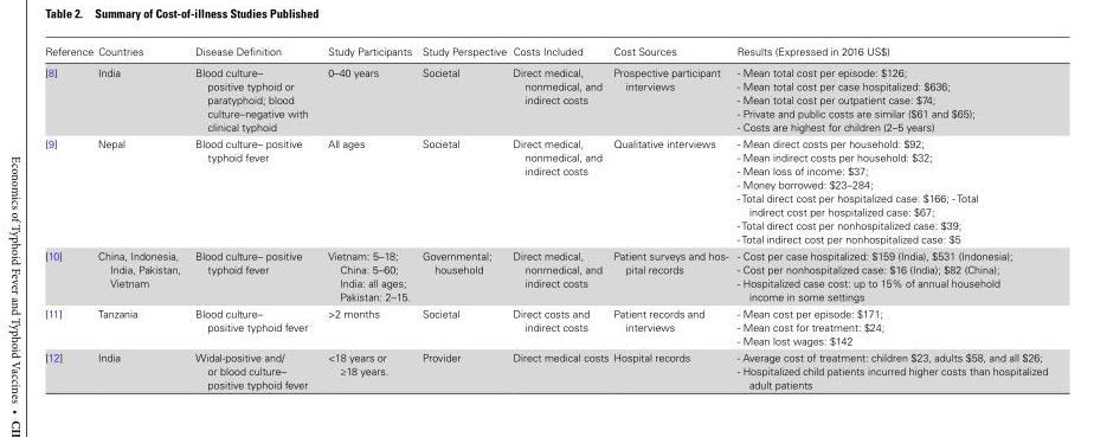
<table><thead><tr><td>Reference</td><td>Countries</td><td>Disease Definition</td><td>Study Participants</td><td>Study Perspective</td><td>Costs Included</td><td>Cost Sources</td><td>Results (Expressed in 2016 US$)</td></tr></thead><tbody><tr><td>[8]</td><td>India</td><td>Blood culture– positive typhoid or paratyphoid; blood culture–negative with clinical typhoid</td><td>0–40 years</td><td>Societal</td><td>Direct medical, nonmedical, and indirect costs</td><td>Prospective participant interviews</td><td>- Mean total cost per episode: $126; - Mean total cost per case hospitalized: $636; - Mean total cost per outpatient case: $74; - Private and public costs are similar ($61 and $65); - Costs are highest for children (2–5 years)</td></tr><tr><td>[9]</td><td>Nepal</td><td>Blood culture– positive typhoid fever</td><td>All ages</td><td>Societal</td><td>Direct medical, nonmedical, and indirect costs</td><td>Qualitative interviews</td><td>- Mean direct costs per household: $92; - Mean indirect costs per household: $32; - Mean loss of income: $37; - Money borrowed: $23–284; - Total direct cost per hospitalized case: $166; - Total indirect cost per hospitalized case: $67; - Total direct cost per nonhospitalized case: $39; - Total indirect cost per nonhospitalized case: $5</td></tr><tr><td>[10]</td><td>China, Indonesia, India, Pakistan, Vietnam</td><td>Blood culture– positive typhoid fever</td><td>Vietnam: 5–18; China: 5–60; India: all ages; Pakistan: 2–15.</td><td>Governmental; household</td><td>Direct medical, nonmedical, and indirect costs</td><td>Patient surveys and hos- pital records</td><td>- Cost per case hospitalized: $159 (India), $531 (Indonesia); - Cost per nonhospitalized case: $16 (India); $82 (China); - Hospitalized case cost: up to 15% of annual household income in some settings</td></tr><tr><td>[11]</td><td>Tanzania</td><td>Blood culture– positive typhoid fever</td><td>&gt;2 months</td><td>Societal</td><td>Direct costs and indirect costs</td><td>Patient records and interviews</td><td>- Mean cost per episode: $171; - Mean cost for treatment: $24; - Mean lost wages: $142</td></tr><tr><td>[12]</td><td>India</td><td>Widal-positive and/ or blood culture– positive typhoid fever</td><td>&lt;18 years or ≥18 years.</td><td>Provider</td><td>Direct medical costs</td><td>Hospital records</td><td>- Average cost of treatment: children $23, adults $58, and all $26; - Hospitalized child patients incurred higher costs than hospitalized adult patients</td></tr></tbody></table>